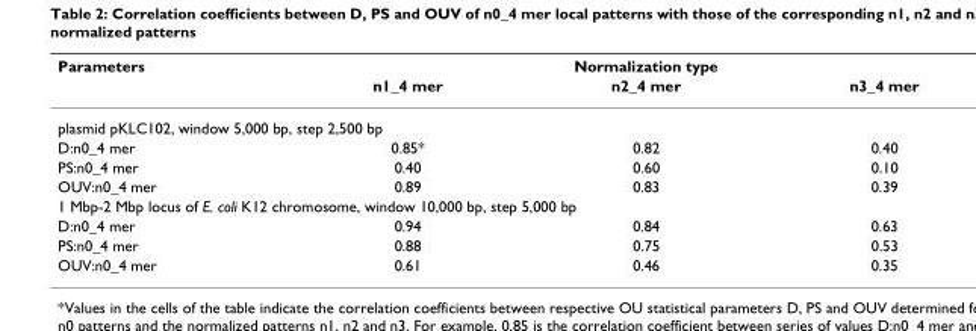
<table><thead><tr><td rowspan="2">Parameters</td><td colspan="3">Normalization type</td></tr><tr><td>n1_4 mer</td><td>n2_4 mer</td><td>n3_4 mer</td></tr></thead><tbody><tr><td colspan="4">plasmid pKLC102, window 5,000 bp, step 2,500 bp</td></tr><tr><td>D:n0_4 mer</td><td>0.85*</td><td>0.82</td><td>0.40</td></tr><tr><td>PS:n0_4 mer</td><td>0.40</td><td>0.60</td><td>0.10</td></tr><tr><td>OUV:n0_4 mer</td><td>0.89</td><td>0.83</td><td>0.39</td></tr><tr><td colspan="4">1 Mbp-2 Mbp locus of E. coli K12 chromosome, window 10,000 bp, step 5,000 bp</td></tr><tr><td>D:n0_4 mer</td><td>0.94</td><td>0.84</td><td>0.63</td></tr><tr><td>PS:n0_4 mer</td><td>0.88</td><td>0.75</td><td>0.53</td></tr><tr><td>OUV:n0_4 mer</td><td>0.61</td><td>0.46</td><td>0.35</td></tr></tbody></table>